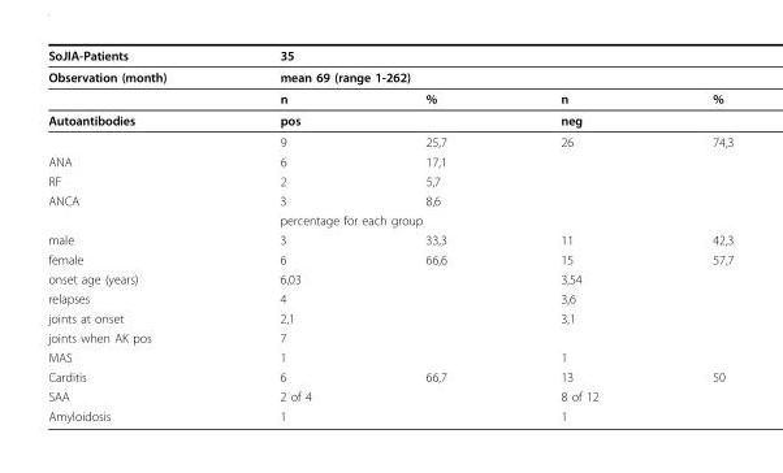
<table><thead><tr><td rowspan="3">SoJIA-Patients Observation (month)</td><td rowspan="2" colspan="4">35 mean 69 (range 1-262)</td></tr><tr></tr><tr><td>n</td><td>%</td><td>n</td><td>%</td></tr></thead><tbody><tr><td rowspan="2">Autoantibodies</td><td colspan="2">pos</td><td colspan="2">neg</td></tr><tr><td>9</td><td>25,7</td><td>26</td><td>74,3</td></tr><tr><td>ANA</td><td>6</td><td>17,1</td><td></td><td></td></tr><tr><td>RF</td><td>2</td><td>5,7</td><td></td><td></td></tr><tr><td rowspan="2">ANCA</td><td>3</td><td>8,6</td><td></td><td></td></tr><tr><td colspan="4">percentage for each group</td></tr><tr><td>male</td><td>3</td><td>33,3</td><td>11</td><td>42,3</td></tr><tr><td>female</td><td>6</td><td>66,6</td><td>15</td><td>57,7</td></tr><tr><td>onset age (years)</td><td>6,03</td><td></td><td>3,54</td><td></td></tr><tr><td>relapses</td><td>4</td><td></td><td>3,6</td><td></td></tr><tr><td>joints at onset</td><td>2,1</td><td></td><td>3,1</td><td></td></tr><tr><td>joints when AK pos</td><td>7</td><td></td><td></td><td></td></tr><tr><td>MAS</td><td>1</td><td></td><td>1</td><td></td></tr><tr><td>Carditis</td><td>6</td><td>66,7</td><td>13</td><td>50</td></tr><tr><td>SAA</td><td>2 of 4</td><td></td><td>8 of 12</td><td></td></tr><tr><td>Amyloidosis</td><td>1</td><td></td><td>1</td><td></td></tr></tbody></table>